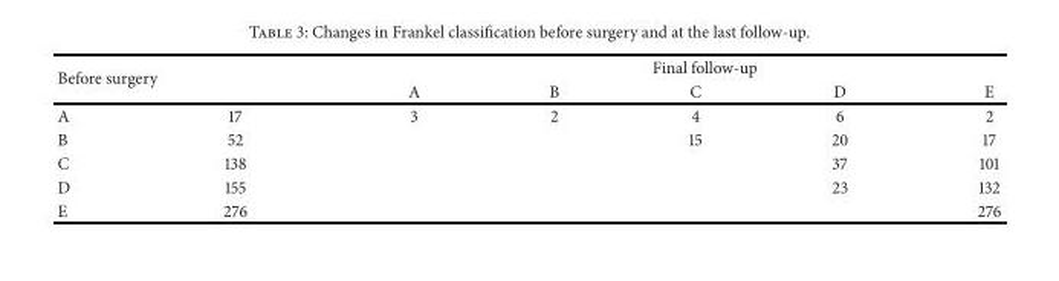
<table><thead><tr><td rowspan="2" colspan="2">Before surgery</td><td colspan="5">Final follow-up</td></tr><tr><td rowspan="2">A 3</td><td rowspan="2">B 2</td><td rowspan="2">C 4</td><td rowspan="2">D 6</td><td rowspan="2">E 2</td></tr><tr><td>A</td><td>17</td></tr></thead><tbody><tr><td>B</td><td>52</td><td></td><td></td><td>15</td><td>20</td><td>17</td></tr><tr><td>C</td><td>138</td><td></td><td></td><td></td><td>37</td><td>101</td></tr><tr><td>D</td><td>155</td><td></td><td></td><td></td><td>23</td><td>132</td></tr><tr><td>E</td><td>276</td><td></td><td></td><td></td><td></td><td>276</td></tr></tbody></table>